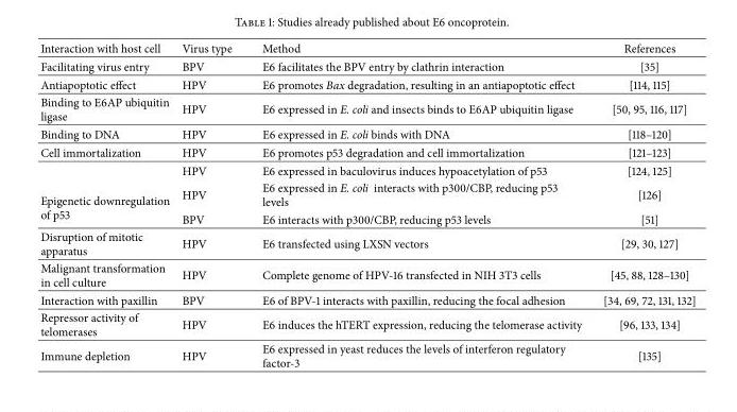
<table><thead><tr><td>Interaction with host cell</td><td>Virus type</td><td>Method</td><td>References</td></tr></thead><tbody><tr><td>Facilitating virus entry</td><td>BPV</td><td>E6 facilitates the BPV entry by clathrin interaction</td><td>[35]</td></tr><tr><td>Antiapoptotic effect</td><td>HPV</td><td>E6 promotes Bax degradation, resulting in an antiapoptotic effect</td><td>[114, 115]</td></tr><tr><td>Binding to E6AP ubiquitin ligase</td><td>HPV</td><td>E6 expressed in E. coli and insects binds to E6AP ubiquitin ligase</td><td>[50, 95, 116, 117]</td></tr><tr><td>Binding to DNA</td><td>HPV</td><td>E6 expressed in E. coli binds with DNA</td><td>[118–120]</td></tr><tr><td>Cell immortalization</td><td>HPV</td><td>E6 promotes p53 degradation and cell immortalization</td><td>[121–123]</td></tr><tr><td rowspan="3">Epigenetic downregulation of p53</td><td>HPV</td><td>E6 expressed in baculovirus induces hypoacetylation of p53</td><td>[124, 125]</td></tr><tr><td>HPV</td><td>E6 expressed in E. coli interacts with p300/CBP, reducing p53 levels</td><td>[126]</td></tr><tr><td>BPV</td><td>E6 interacts with p300/CBP, reducing p53 levels</td><td>[51]</td></tr><tr><td>Disruption of mitotic apparatus</td><td>HPV</td><td>E6 transfected using LXSN vectors</td><td>[29, 30, 127]</td></tr><tr><td>Malignant transformation in cell culture</td><td>HPV</td><td>Complete genome of HPV-16 transfected in NIH 3T3 cells</td><td>[45, 88, 128–130]</td></tr><tr><td>Interaction with paxillin</td><td>BPV</td><td>E6 of BPV-1 interacts with paxillin, reducing the focal adhesion</td><td>[34, 69, 72, 131, 132]</td></tr><tr><td>Repressor activity of telomerases</td><td>HPV</td><td>E6 induces the hTERT expression, reducing the telomerase activity</td><td>[96, 133, 134]</td></tr><tr><td>Immune depletion</td><td>HPV</td><td>E6 expressed in yeast reduces the levels of interferon regulatory factor-3</td><td>[135]</td></tr></tbody></table>